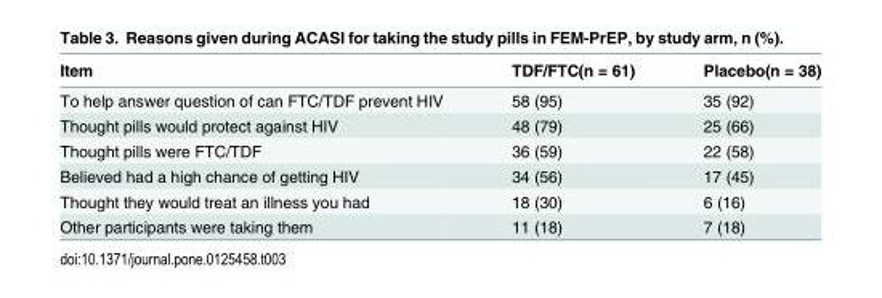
<table><thead><tr><td>Item</td><td>TDF/FTC(n = 61)</td><td>Placebo(n = 38)</td></tr></thead><tbody><tr><td>To help answer question of can FTC/TDF prevent HIV</td><td>58 (95)</td><td>35 (92)</td></tr><tr><td>Thought pills would protect against HIV</td><td>48 (79)</td><td>25 (66)</td></tr><tr><td>Thought pills were FTC/TDF</td><td>36 (59)</td><td>22 (58)</td></tr><tr><td>Believed had a high chance of getting HIV</td><td>34 (56)</td><td>17 (45)</td></tr><tr><td>Thought they would treat an illness you had</td><td>18 (30)</td><td>6 (16)</td></tr><tr><td>Other participants were taking them</td><td>11 (18)</td><td>7 (18)</td></tr></tbody></table>